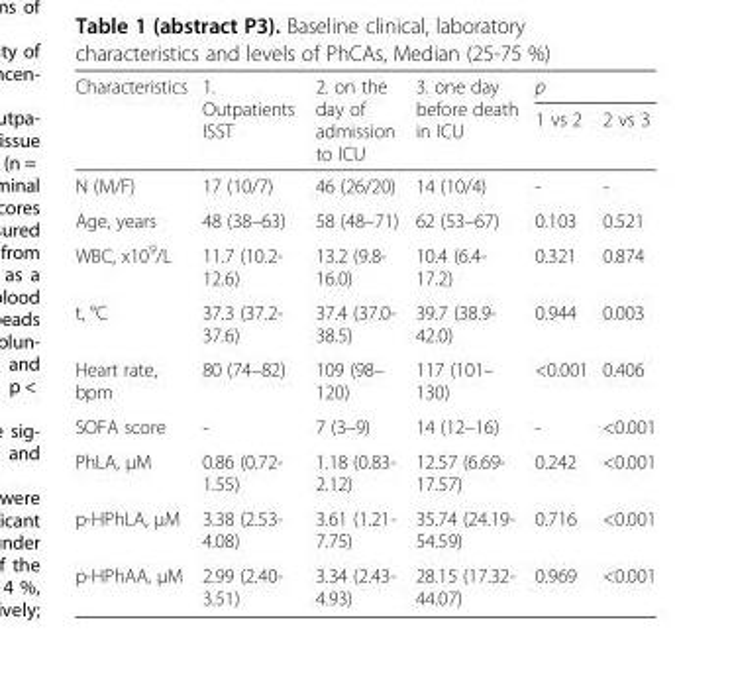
<table><thead><tr><td rowspan="2">Сharacteristics</td><td rowspan="2">1. Outpatients ISST</td><td rowspan="2">2. on the day of admission to ICU</td><td rowspan="2">3. one day before death in ICU</td><td colspan="2">p</td></tr><tr><td>1 vs 2</td><td>2 vs 3</td></tr></thead><tbody><tr><td>N (M/F)</td><td>17 (10/7)</td><td>46 (26/20)</td><td>14 (10/4)</td><td>-</td><td>-</td></tr><tr><td>Age, years</td><td>48 (38–63)</td><td>58 (48–71)</td><td>62 (53–67)</td><td>0.103</td><td>0.521</td></tr><tr><td>WBC, х10<sup>9</sup>/L</td><td>11.7 (10.2- 12.6)</td><td>13.2 (9.8- 16.0)</td><td>10.4 (6.4- 17.2)</td><td>0.321</td><td>0.874</td></tr><tr><td>t, °C</td><td>37.3 (37.2- 37.6)</td><td>37.4 (37.0- 38.5)</td><td>39.7 (38.9- 42.0)</td><td>0.944</td><td>0.003</td></tr><tr><td>Heart rate, bpm</td><td>80 (74–82)</td><td>109 (98– 120)</td><td>117 (101– 130)</td><td>&lt;0.001</td><td>0.406</td></tr><tr><td>SOFA score</td><td>-</td><td>7 (3–9)</td><td>14 (12–16)</td><td>-</td><td>&lt;0.001</td></tr><tr><td>PhLA, μM</td><td>0.86 (0.72- 1.55)</td><td>1.18 (0.83- 2.12)</td><td>12.57 (6.69- 17.57)</td><td>0.242</td><td>&lt;0.001</td></tr><tr><td>p-HPhLA, μM</td><td>3.38 (2.53- 4.08)</td><td>3.61 (1.21- 7.75)</td><td>35.74 (24.19- 54.59)</td><td>0.716</td><td>&lt;0.001</td></tr><tr><td>p-HPhAA, μM</td><td>2.99 (2.40- 3.51)</td><td>3.34 (2.43- 4.93)</td><td>28.15 (17.32- 44.07)</td><td>0.969</td><td>&lt;0.001</td></tr></tbody></table>